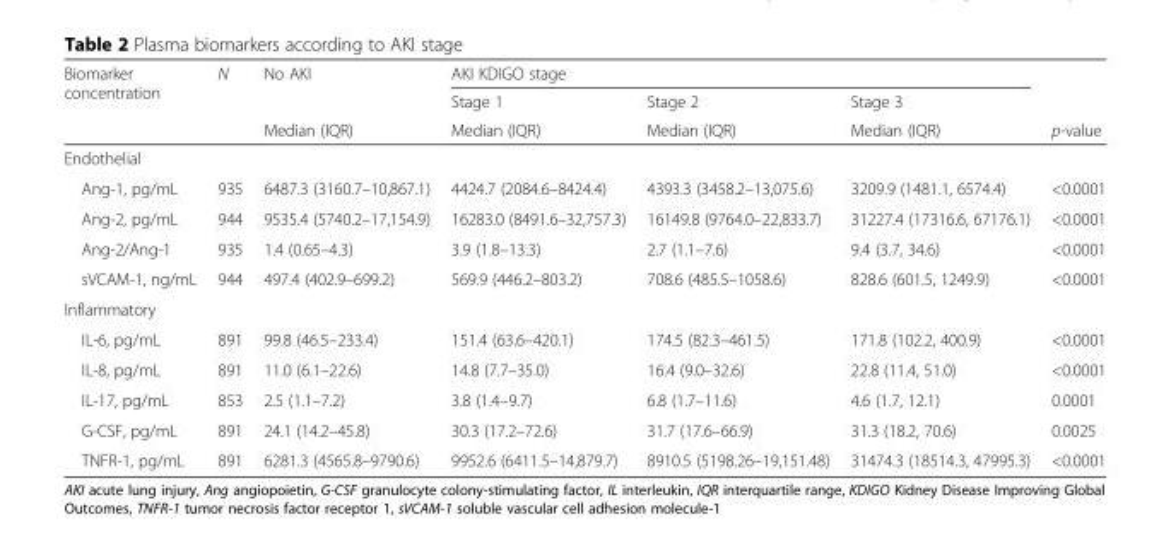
<table><thead><tr><td rowspan="3">Biomarker concentration</td><td rowspan="3">N</td><td rowspan="3">No AKI Median (IQR)</td><td colspan="3">AKI KDIGO stage</td><td rowspan="3">p-value</td></tr><tr><td rowspan="2">Stage 1 Median (IQR)</td><td rowspan="2">Stage 2 Median (IQR)</td><td rowspan="2">Stage 3 Median (IQR)</td></tr><tr></tr></thead><tbody><tr><td colspan="7">Endothelial</td></tr><tr><td>Ang-1, pg/mL</td><td>935</td><td>6487.3 (3160.7–10,867.1)</td><td>4424.7 (2084.6–8424.4)</td><td>4393.3 (3458.2–13,075.6)</td><td>3209.9 (1481.1, 6574.4)</td><td>&lt;0.0001</td></tr><tr><td>Ang-2, pg/mL</td><td>944</td><td>9535.4 (5740.2–17,154.9)</td><td>16283.0 (8491.6–32,757.3)</td><td>16149.8 (9764.0–22,833.7)</td><td>31227.4 (17316.6, 67176.1)</td><td>&lt;0.0001</td></tr><tr><td>Ang-2/Ang-1</td><td>935</td><td>1.4 (0.65–4.3)</td><td>3.9 (1.8–13.3)</td><td>2.7 (1.1–7.6)</td><td>9.4 (3.7, 34.6)</td><td>&lt;0.0001</td></tr><tr><td>sVCAM-1, ng/mL</td><td>944</td><td>497.4 (402.9–699.2)</td><td>569.9 (446.2–803.2)</td><td>708.6 (485.5–1058.6)</td><td>828.6 (601.5, 1249.9)</td><td>&lt;0.0001</td></tr><tr><td colspan="7">Inflammatory</td></tr><tr><td>IL-6, pg/mL</td><td>891</td><td>99.8 (46.5–233.4)</td><td>151.4 (63.6–420.1)</td><td>174.5 (82.3–461.5)</td><td>171.8 (102.2, 400.9)</td><td>&lt;0.0001</td></tr><tr><td>IL-8, pg/mL</td><td>891</td><td>11.0 (6.1–22.6)</td><td>14.8 (7.7–35.0)</td><td>16.4 (9.0–32.6)</td><td>22.8 (11.4, 51.0)</td><td>&lt;0.0001</td></tr><tr><td>IL-17, pg/mL</td><td>853</td><td>2.5 (1.1–7.2)</td><td>3.8 (1.4–9.7)</td><td>6.8 (1.7–11.6)</td><td>4.6 (1.7, 12.1)</td><td>0.0001</td></tr><tr><td>G-CSF, pg/mL</td><td>891</td><td>24.1 (14.2–45.8)</td><td>30.3 (17.2–72.6)</td><td>31.7 (17.6–66.9)</td><td>31.3 (18.2, 70.6)</td><td>0.0025</td></tr><tr><td>TNFR-1, pg/mL</td><td>891</td><td>6281.3 (4565.8–9790.6)</td><td>9952.6 (6411.5–14,879.7)</td><td>8910.5 (5198.26–19,151.48)</td><td>31474.3 (18514.3, 47995.3)</td><td>&lt;0.0001</td></tr></tbody></table>